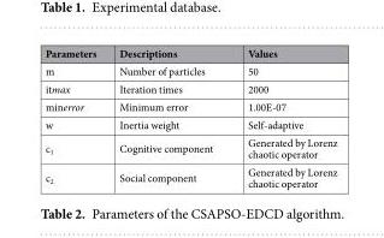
<table><thead><tr><td>Parameters</td><td>Descriptions</td><td>Values</td></tr></thead><tbody><tr><td>m</td><td>Number of particles</td><td>50</td></tr><tr><td>itmax</td><td>Iteration times</td><td>2000</td></tr><tr><td>minerror</td><td>Minimum error</td><td>1.00E-07</td></tr><tr><td>w</td><td>Inertia weight</td><td>Self-adaptive</td></tr><tr><td>c<sub>1</sub></td><td>Cognitive component</td><td>Generated by Lorenz chaotic operator</td></tr><tr><td>c<sub>2</sub></td><td>Social component</td><td>Generated by Lorenz chaotic operator</td></tr></tbody></table>